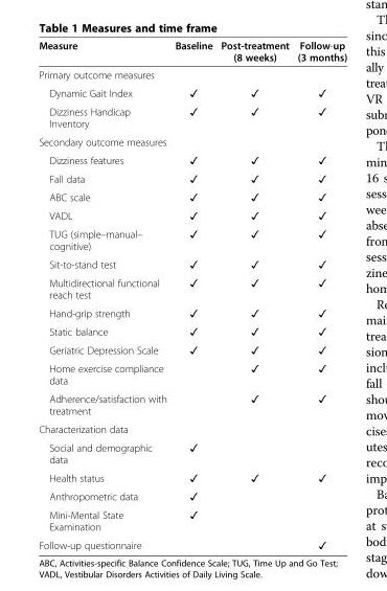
<table><thead><tr><td>Measure</td><td>Baseline</td><td>Post-treatment (8 weeks)</td><td>Follow-up (3 months)</td></tr></thead><tbody><tr><td colspan="4">Primary outcome measures</td></tr><tr><td>Dynamic Gait Index</td><td>✓</td><td>✓</td><td>✓</td></tr><tr><td>Dizziness Handicap Inventory</td><td>✓</td><td>✓</td><td>✓</td></tr><tr><td colspan="4">Secondary outcome measures</td></tr><tr><td>Dizziness features</td><td>✓</td><td>✓</td><td>✓</td></tr><tr><td>Fall data</td><td>✓</td><td>✓</td><td>✓</td></tr><tr><td>ABC scale</td><td>✓</td><td>✓</td><td>✓</td></tr><tr><td>VADL</td><td>✓</td><td>✓</td><td>✓</td></tr><tr><td>TUG (simple–manual– cognitive)</td><td>✓</td><td>✓</td><td>✓</td></tr><tr><td>Sit-to-stand test</td><td>✓</td><td>✓</td><td>✓</td></tr><tr><td>Multidirectional functional reach test</td><td>✓</td><td>✓</td><td>✓</td></tr><tr><td>Hand-grip strength</td><td>✓</td><td>✓</td><td>✓</td></tr><tr><td>Static balance</td><td>✓</td><td>✓</td><td>✓</td></tr><tr><td>Geriatric Depression Scale</td><td>✓</td><td>✓</td><td>✓</td></tr><tr><td>Home exercise compliance data</td><td></td><td>✓</td><td>✓</td></tr><tr><td>Adherence/satisfaction with treatment</td><td></td><td>✓</td><td>✓</td></tr><tr><td colspan="4">Characterization data</td></tr><tr><td>Social and demographic data</td><td>✓</td><td></td><td></td></tr><tr><td>Health status</td><td>✓</td><td>✓</td><td>✓</td></tr><tr><td>Anthropometric data</td><td>✓</td><td></td><td></td></tr><tr><td>Mini-Mental State Examination</td><td>✓</td><td></td><td></td></tr><tr><td>Follow-up questionnaire</td><td></td><td></td><td>✓</td></tr></tbody></table>